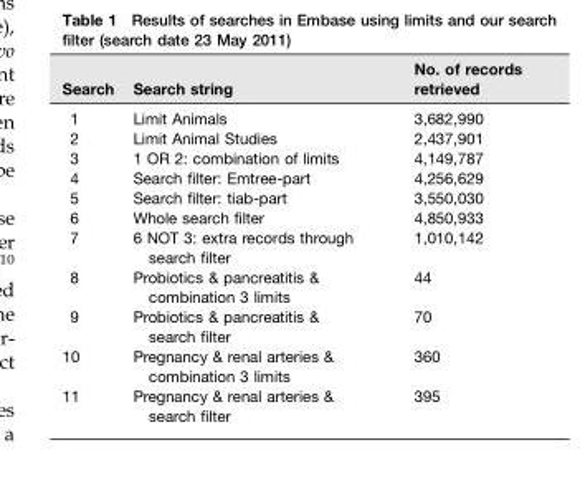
<table><thead><tr><td>Search</td><td>Search string</td><td>No. of records retrieved</td></tr></thead><tbody><tr><td>1</td><td>Limit Animals</td><td>3,682,990</td></tr><tr><td>2</td><td>Limit Animal Studies</td><td>2,437,901</td></tr><tr><td>3</td><td>1 OR 2: combination of limits</td><td>4,149,787</td></tr><tr><td>4</td><td>Search filter: Emtree-part</td><td>4,256,629</td></tr><tr><td>5</td><td>Search filter: tiab-part</td><td>3,550,030</td></tr><tr><td>6</td><td>Whole search filter</td><td>4,850,933</td></tr><tr><td>7</td><td>6 NOT 3: extra records through search filter</td><td>1,010,142</td></tr><tr><td>8</td><td>Probiotics &amp; pancreatitis &amp; combination 3 limits</td><td>44</td></tr><tr><td>9</td><td>Probiotics &amp; pancreatitis &amp; search filter</td><td>70</td></tr><tr><td>10</td><td>Pregnancy &amp; renal arteries &amp; combination 3 limits</td><td>360</td></tr><tr><td>11</td><td>Pregnancy &amp; renal arteries &amp; search filter</td><td>395</td></tr></tbody></table>